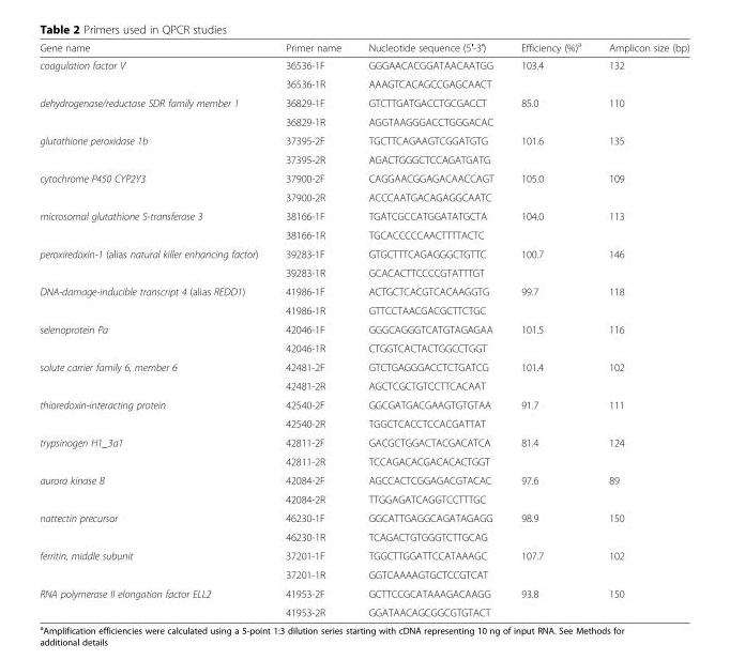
<table><thead><tr><td>Gene name</td><td>Primer name</td><td>Nucleotide sequence (5′-3′)</td><td>Efficiency (%)<sup>a</sup></td><td>Amplicon size (bp)</td></tr></thead><tbody><tr><td rowspan="2">coagulation factor V</td><td>36536-1F</td><td>GGGAACACGGATAACAATGG</td><td rowspan="2">103.4</td><td rowspan="2">132</td></tr><tr><td>36536-1R</td><td>AAAGTCACAGCCGAGCAACT</td></tr><tr><td rowspan="2">dehydrogenase/reductase SDR family member 1</td><td>36829-1F</td><td>GTCTTGATGACCTGCGACCT</td><td rowspan="2">85.0</td><td rowspan="2">110</td></tr><tr><td>36829-1R</td><td>AGGTAAGGGACCTGGGACAC</td></tr><tr><td rowspan="2">glutathione peroxidase 1b</td><td>37395-2F</td><td>TGCTTCAGAAGTCGGATGTG</td><td rowspan="2">101.6</td><td rowspan="2">135</td></tr><tr><td>37395-2R</td><td>AGACTGGGCTCCAGATGATG</td></tr><tr><td rowspan="2">cytochrome P450 CYP2Y3</td><td>37900-2F</td><td>CAGGAACGGAGACAACCAGT</td><td rowspan="2">105.0</td><td rowspan="2">109</td></tr><tr><td>37900-2R</td><td>ACCCAATGACAGAGGCAATC</td></tr><tr><td rowspan="2">microsomal glutathione S-transferase 3</td><td>38166-1F</td><td>TGATCGCCATGGATATGCTA</td><td rowspan="2">104.0</td><td rowspan="2">113</td></tr><tr><td>38166-1R</td><td>TGCACCCCCAACTTTTACTC</td></tr><tr><td rowspan="2">peroxiredoxin-1 (alias natural killer enhancing factor)</td><td>39283-1F</td><td>GTGCTTTCAGAGGGCTGTTC</td><td rowspan="2">100.7</td><td rowspan="2">146</td></tr><tr><td>39283-1R</td><td>GCACACTTCCCCGTATTTGT</td></tr><tr><td rowspan="2">DNA-damage-inducible transcript 4 (alias REDD1)</td><td>41986-1F</td><td>ACTGCTCACGTCACAAGGTG</td><td rowspan="2">99.7</td><td rowspan="2">118</td></tr><tr><td>41986-1R</td><td>GTTCCTAACGACGCTTCTGC</td></tr><tr><td rowspan="2">selenoprotein Pa</td><td>42046-1F</td><td>GGGCAGGGTCATGTAGAGAA</td><td rowspan="2">101.5</td><td rowspan="2">116</td></tr><tr><td>42046-1R</td><td>CTGGTCACTACTGGCCTGGT</td></tr><tr><td rowspan="2">solute carrier family 6, member 6</td><td>42481-2F</td><td>GTCTGAGGGACCTCTGATCG</td><td rowspan="2">101.4</td><td rowspan="2">102</td></tr><tr><td>42481-2R</td><td>AGCTCGCTGTCCTTCACAAT</td></tr><tr><td rowspan="2">thioredoxin-interacting protein</td><td>42540-2F</td><td>GGCGATGACGAAGTGTGTAA</td><td rowspan="2">91.7</td><td rowspan="2">111</td></tr><tr><td>42540-2R</td><td>TGGCTCACCTCCACGATTAT</td></tr><tr><td rowspan="2">trypsinogen H1_3a1</td><td>42811-2F</td><td>GACGCTGGACTACGACATCA</td><td rowspan="2">81.4</td><td rowspan="2">124</td></tr><tr><td>42811-2R</td><td>TCCAGACACGACACACTGGT</td></tr><tr><td rowspan="2">aurora kinase B</td><td>42084-2F</td><td>AGCCACTCGGAGACGTACAC</td><td rowspan="2">97.6</td><td rowspan="2">89</td></tr><tr><td>42084-2R</td><td>TTGGAGATCAGGTCCTTTGC</td></tr><tr><td rowspan="2">nattectin precursor</td><td>46230-1F</td><td>GGCATTGAGGCAGATAGAGG</td><td rowspan="2">98.9</td><td rowspan="2">150</td></tr><tr><td>46230-1R</td><td>TCAGACTGTGGGTCTTGCAG</td></tr><tr><td rowspan="2">ferritin, middle subunit</td><td>37201-1F</td><td>TGGCTTGGATTCCATAAAGC</td><td rowspan="2">107.7</td><td rowspan="2">102</td></tr><tr><td>37201-1R</td><td>GGTCAAAAGTGCTCCGTCAT</td></tr><tr><td rowspan="2">RNA polymerase II elongation factor ELL2</td><td>41953-2F</td><td>GCTTCCGCATAAAGACAAGG</td><td rowspan="2">93.8</td><td rowspan="2">150</td></tr><tr><td>41953-2R</td><td>GGATAACAGCGGCGTGTACT</td></tr></tbody></table>